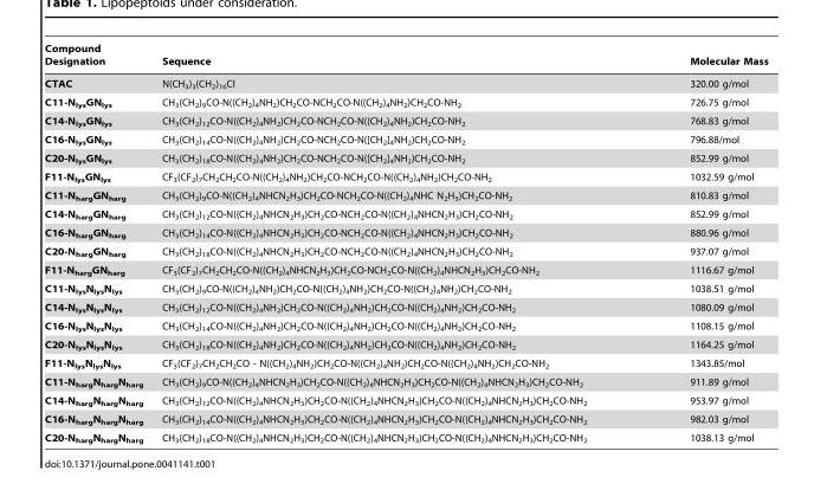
<table><thead><tr><td>Compound Designation</td><td>Sequence</td><td>Molecular Mass</td></tr></thead><tbody><tr><td>CTAC</td><td>N(CH<sub>3</sub>)<sub>3</sub>(CH<sub>2</sub>)<sub>16</sub>Cl</td><td>320.00 g/mol</td></tr><tr><td>C11-N<sub>lys</sub>GN<sub>lys</sub></td><td>CH<sub>3</sub>(CH<sub>2</sub>)<sub>9</sub>CO-N((CH<sub>2</sub>)<sub>4</sub>NH<sub>2</sub>)CH<sub>2</sub>CO-NCH<sub>2</sub>CO-N((CH<sub>2</sub>)<sub>4</sub>NH<sub>2</sub>)CH<sub>2</sub>CO-NH<sub>2</sub></td><td>726.75 g/mol</td></tr><tr><td>C14-N<sub>lys</sub>GN<sub>lys</sub></td><td>CH<sub>3</sub>(CH<sub>2</sub>)<sub>12</sub>CO-N((CH<sub>2</sub>)<sub>4</sub>NH<sub>2</sub>)CH<sub>2</sub>CO-NCH<sub>2</sub>CO-N((CH<sub>2</sub>)<sub>4</sub>NH<sub>2</sub>)CH<sub>2</sub>CO-NH<sub>2</sub></td><td>768.83 g/mol</td></tr><tr><td>C16-N<sub>lys</sub>GN<sub>lys</sub></td><td>CH<sub>3</sub>(CH<sub>2</sub>)<sub>14</sub>CO-N((CH<sub>2</sub>)<sub>4</sub>NH<sub>2</sub>)CH<sub>2</sub>CO-NCH<sub>2</sub>CO-N([CH<sub>2</sub>]<sub>4</sub>NH<sub>2</sub>)CH<sub>2</sub>CO-NH<sub>2</sub></td><td>796.88/mol</td></tr><tr><td>C20-N<sub>lys</sub>GN<sub>lys</sub></td><td>CH<sub>3</sub>(CH<sub>2</sub>)<sub>18</sub>CO-N((CH<sub>2</sub>)<sub>4</sub>NH<sub>2</sub>)CH<sub>2</sub>CO-NCH<sub>2</sub>CO-N([CH<sub>2</sub>]<sub>4</sub>NH<sub>2</sub>)CH<sub>2</sub>CO-NH<sub>2</sub></td><td>852.99 g/mol</td></tr><tr><td>F11-N<sub>lys</sub>GN<sub>lys</sub></td><td>CF<sub>3</sub>(CF<sub>2</sub>)<sub>7</sub>CH<sub>2</sub>CH<sub>2</sub>CO-N((CH<sub>2</sub>)<sub>4</sub>NH<sub>2</sub>)CH<sub>2</sub>CO-NCH<sub>2</sub>CO-N((CH<sub>2</sub>)<sub>4</sub>NH<sub>2</sub>)CH<sub>2</sub>CO-NH<sub>2</sub></td><td>1032.59 g/mol</td></tr><tr><td>C11-N<sub>harg</sub>GN<sub>harg</sub></td><td>CH<sub>3</sub>(CH<sub>2</sub>)<sub>9</sub>CO-N((CH<sub>2</sub>)<sub>4</sub>NHCN<sub>2</sub>H<sub>3</sub>)CH<sub>2</sub>CO-NCH<sub>2</sub>CO-N((CH<sub>2</sub>)<sub>4</sub>NHC N<sub>2</sub>H<sub>3</sub>)CH<sub>2</sub>CO-NH<sub>2</sub></td><td>810.83 g/mol</td></tr><tr><td>C14-N<sub>harg</sub>GN<sub>harg</sub></td><td>CH<sub>3</sub>(CH<sub>2</sub>)<sub>12</sub>CO-N((CH<sub>2</sub>)<sub>4</sub>NHCN<sub>2</sub>H<sub>3</sub>)CH<sub>2</sub>CO-NCH<sub>2</sub>CO-N((CH<sub>2</sub>)<sub>4</sub>NHCN<sub>2</sub>H<sub>3</sub>)CH<sub>2</sub>CO-NH<sub>2</sub></td><td>852.99 g/mol</td></tr><tr><td>C16-N<sub>harg</sub>GN<sub>harg</sub></td><td>CH<sub>3</sub>(CH<sub>2</sub>)<sub>14</sub>CO-N((CH<sub>2</sub>)<sub>4</sub>NHCN<sub>2</sub>H<sub>3</sub>)CH<sub>2</sub>CO-NCH<sub>2</sub>CO-N((CH<sub>2</sub>)<sub>4</sub>NHCN<sub>2</sub>H<sub>3</sub>)CH<sub>2</sub>CO-NH<sub>2</sub></td><td>880.96 g/mol</td></tr><tr><td>C20-N<sub>harg</sub>GN<sub>harg</sub></td><td>CH<sub>3</sub>(CH<sub>2</sub>)<sub>18</sub>CO-N((CH<sub>2</sub>)<sub>4</sub>NHCN<sub>2</sub>H<sub>3</sub>)CH<sub>2</sub>CO-NCH<sub>2</sub>CO-N((CH<sub>2</sub>)<sub>4</sub>NHCN<sub>2</sub>H<sub>3</sub>)CH<sub>2</sub>CO-NH<sub>2</sub></td><td>937.07 g/mol</td></tr><tr><td>F11-N<sub>harg</sub>GN<sub>harg</sub></td><td>CF<sub>3</sub>(CF<sub>2</sub>)<sub>7</sub>CH<sub>2</sub>CH<sub>2</sub>CO-N((CH<sub>2</sub>)<sub>4</sub>NHCN<sub>2</sub>H<sub>3</sub>)CH<sub>2</sub>CO-NCH<sub>2</sub>CO-N((CH<sub>2</sub>)<sub>4</sub>NHCN<sub>2</sub>H<sub>3</sub>)CH<sub>2</sub>CO-NH<sub>2</sub></td><td>1116.67 g/mol</td></tr><tr><td>C11-N<sub>lys</sub>N<sub>lys</sub>N<sub>lys</sub></td><td>CH<sub>3</sub>(CH<sub>2</sub>)<sub>9</sub>CO-N((CH<sub>2</sub>)<sub>4</sub>NH<sub>2</sub>)CH<sub>2</sub>CO-N((CH<sub>2</sub>)<sub>4</sub>NH<sub>2</sub>)CH<sub>2</sub>CO-N((CH<sub>2</sub>)<sub>4</sub>NH<sub>2</sub>)CH<sub>2</sub>CO-NH<sub>2</sub></td><td>1038.51 g/mol</td></tr><tr><td>C14-N<sub>lys</sub>N<sub>lys</sub>N<sub>lys</sub></td><td>CH<sub>3</sub>(CH<sub>2</sub>)<sub>12</sub>CO-N((CH<sub>2</sub>)<sub>4</sub>NH<sub>2</sub>)CH<sub>2</sub>CO-N((CH<sub>2</sub>)<sub>4</sub>NH<sub>2</sub>)CH<sub>2</sub>CO-N((CH<sub>2</sub>)<sub>4</sub>NH<sub>2</sub>)CH<sub>2</sub>CO-NH<sub>2</sub></td><td>1080.09 g/mol</td></tr><tr><td>C16-N<sub>lys</sub>N<sub>lys</sub>N<sub>lys</sub></td><td>CH<sub>3</sub>(CH<sub>2</sub>)<sub>14</sub>CO-N((CH<sub>2</sub>)<sub>4</sub>NH<sub>2</sub>)CH<sub>2</sub>CO-N((CH<sub>2</sub>)<sub>4</sub>NH<sub>2</sub>)CH<sub>2</sub>CO-N((CH<sub>2</sub>)<sub>4</sub>NH<sub>2</sub>)CH<sub>2</sub>CO-NH<sub>2</sub></td><td>1108.15 g/mol</td></tr><tr><td>C20-N<sub>lys</sub>N<sub>lys</sub>N<sub>lys</sub></td><td>CH<sub>3</sub>(CH<sub>2</sub>)<sub>18</sub>CO-N((CH<sub>2</sub>)<sub>4</sub>NH<sub>2</sub>)CH<sub>2</sub>CO-N((CH<sub>2</sub>)<sub>4</sub>NH<sub>2</sub>)CH<sub>2</sub>CO-N((CH<sub>2</sub>)<sub>4</sub>NH<sub>2</sub>)CH<sub>2</sub>CO-NH<sub>2</sub></td><td>1164.25 g/mol</td></tr><tr><td>F11-N<sub>lys</sub>N<sub>lys</sub>N<sub>lys</sub></td><td>CF<sub>3</sub>(CF<sub>2</sub>)<sub>7</sub>CH<sub>2</sub>CH<sub>2</sub>CO - N((CH<sub>2</sub>)<sub>4</sub>NH<sub>2</sub>)CH<sub>2</sub>CO-N((CH<sub>2</sub>)<sub>4</sub>NH<sub>2</sub>)CH<sub>2</sub>CO-N((CH<sub>2</sub>)<sub>4</sub>NH<sub>2</sub>)CH<sub>2</sub>CO-NH<sub>2</sub></td><td>1343.85/mol</td></tr><tr><td>C11-N<sub>harg</sub>N<sub>harg</sub>N<sub>harg</sub></td><td>CH<sub>3</sub>(CH<sub>2</sub>)<sub>9</sub>CO-N((CH<sub>2</sub>)<sub>4</sub>NHCN<sub>2</sub>H<sub>3</sub>)CH<sub>2</sub>CO-N((CH<sub>2</sub>)<sub>4</sub>NHCN<sub>2</sub>H<sub>3</sub>)CH<sub>2</sub>CO-N((CH<sub>2</sub>)<sub>4</sub>NHCN<sub>2</sub>H<sub>3</sub>)CH<sub>2</sub>CO-NH<sub>2</sub></td><td>911.89 g/mol</td></tr><tr><td>C14-N<sub>harg</sub>N<sub>harg</sub>N<sub>harg</sub></td><td>CH<sub>3</sub>(CH<sub>2</sub>)<sub>12</sub>CO-N((CH<sub>2</sub>)<sub>4</sub>NHCN<sub>2</sub>H<sub>3</sub>)CH<sub>2</sub>CO-N((CH<sub>2</sub>)<sub>4</sub>NHCN<sub>2</sub>H<sub>3</sub>)CH<sub>2</sub>CO-N((CH<sub>2</sub>)<sub>4</sub>NHCN<sub>2</sub>H<sub>3</sub>)CH<sub>2</sub>CO-NH<sub>2</sub></td><td>953.97 g/mol</td></tr><tr><td>C16-N<sub>harg</sub>N<sub>harg</sub>N<sub>harg</sub></td><td>CH<sub>3</sub>(CH<sub>2</sub>)<sub>14</sub>CO-N((CH<sub>2</sub>)<sub>4</sub>NHCN<sub>2</sub>H<sub>3</sub>)CH<sub>2</sub>CO-N((CH<sub>2</sub>)<sub>4</sub>NHCN<sub>2</sub>H<sub>3</sub>)CH<sub>2</sub>CO-N((CH<sub>2</sub>)<sub>4</sub>NHCN<sub>2</sub>H<sub>3</sub>)CH<sub>2</sub>CO-NH<sub>2</sub></td><td>982.03 g/mol</td></tr><tr><td>C20-N<sub>harg</sub>N<sub>harg</sub>N<sub>harg</sub></td><td>CH<sub>3</sub>(CH<sub>2</sub>)<sub>18</sub>CO-N((CH<sub>2</sub>)<sub>4</sub>NHCN<sub>2</sub>H<sub>3</sub>)CH<sub>2</sub>CO-N((CH<sub>2</sub>)<sub>4</sub>NHCN<sub>2</sub>H<sub>3</sub>)CH<sub>2</sub>CO-N((CH<sub>2</sub>)<sub>4</sub>NHCN<sub>2</sub>H<sub>3</sub>)CH<sub>2</sub>CO-NH<sub>2</sub></td><td>1038.13 g/mol</td></tr></tbody></table>